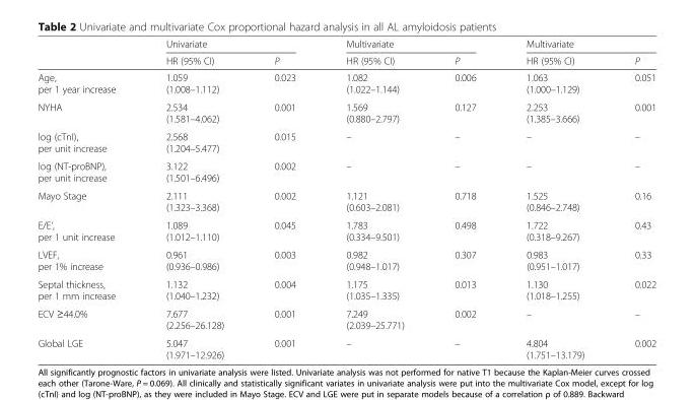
<table><thead><tr><td rowspan="2"></td><td colspan="2">Univariate</td><td colspan="2">Multivariate</td><td colspan="2">Multivariate</td></tr><tr><td>HR (95% CI)</td><td>P</td><td>HR (95% CI)</td><td>P</td><td>HR (95% CI)</td><td>P</td></tr></thead><tbody><tr><td>Age, per 1 year increase</td><td>1.059 (1.008–1.112)</td><td>0.023</td><td>1.082 (1.022–1.144)</td><td>0.006</td><td>1.063 (1.000–1.129)</td><td>0.051</td></tr><tr><td>NYHA</td><td>2.534 (1.581–4.062)</td><td>0.001</td><td>1.569 (0.880–2.797)</td><td>0.127</td><td>2.253 (1.385–3.666)</td><td>0.001</td></tr><tr><td>log (cTnI), per unit increase</td><td>2.568 (1.204–5.477)</td><td>0.015</td><td>–</td><td>–</td><td>–</td><td>–</td></tr><tr><td>log (NT-proBNP), per unit increase</td><td>3.122 (1.501–6.496)</td><td>0.002</td><td>–</td><td>–</td><td>–</td><td>–</td></tr><tr><td>Mayo Stage</td><td>2.111 (1.323–3.368)</td><td>0.002</td><td>1.121 (0.603–2.081)</td><td>0.718</td><td>1.525 (0.846–2.748)</td><td>0.16</td></tr><tr><td>E/E’, per 1 unit increase</td><td>1.089 (1.012–1.110)</td><td>0.045</td><td>1.783 (0.334–9.501)</td><td>0.498</td><td>1.722 (0.318–9.267)</td><td>0.43</td></tr><tr><td>LVEF, per 1% increase</td><td>0.961 (0.936–0.986)</td><td>0.003</td><td>0.982 (0.948–1.017)</td><td>0.307</td><td>0.983 (0.951–1.017)</td><td>0.33</td></tr><tr><td>Septal thickness, per 1 mm increase</td><td>1.132 (1.040–1.232)</td><td>0.004</td><td>1.175 (1.035–1.335)</td><td>0.013</td><td>1.130 (1.018–1.255)</td><td>0.022</td></tr><tr><td>ECV ≥44.0%</td><td>7.677 (2.256–26.128)</td><td>0.001</td><td>7.249 (2.039–25.771)</td><td>0.002</td><td>–</td><td>–</td></tr><tr><td>Global LGE</td><td>5.047 (1.971–12.926)</td><td>0.001</td><td>–</td><td>–</td><td>4.804 (1.751–13.179)</td><td>0.002</td></tr></tbody></table>